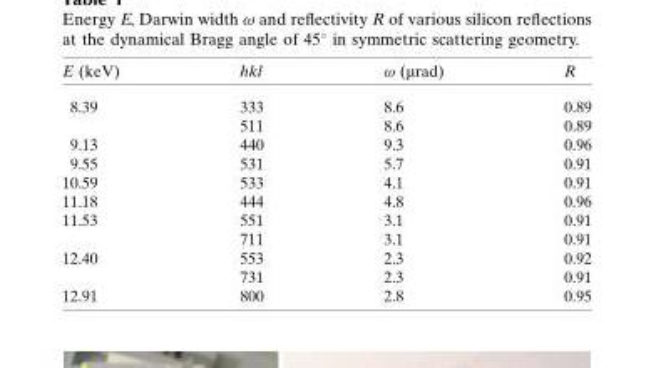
<table><thead><tr><td>E (keV)</td><td>hkl</td><td>! (mrad)</td><td>R</td></tr></thead><tbody><tr><td rowspan="2">8.39</td><td>333</td><td>8.6</td><td>0.89</td></tr><tr><td>511</td><td>8.6</td><td>0.89</td></tr><tr><td>9.13</td><td>440</td><td>9.3</td><td>0.96</td></tr><tr><td>9.55</td><td>531</td><td>5.7</td><td>0.91</td></tr><tr><td>10.59</td><td>533</td><td>4.1</td><td>0.91</td></tr><tr><td>11.18</td><td>444</td><td>4.8</td><td>0.96</td></tr><tr><td rowspan="2">11.53</td><td>551</td><td>3.1</td><td>0.91</td></tr><tr><td>711</td><td>3.1</td><td>0.91</td></tr><tr><td rowspan="2">12.40</td><td>553</td><td>2.3</td><td>0.92</td></tr><tr><td>731</td><td>2.3</td><td>0.91</td></tr><tr><td>12.91</td><td>800</td><td>2.8</td><td>0.95</td></tr></tbody></table>